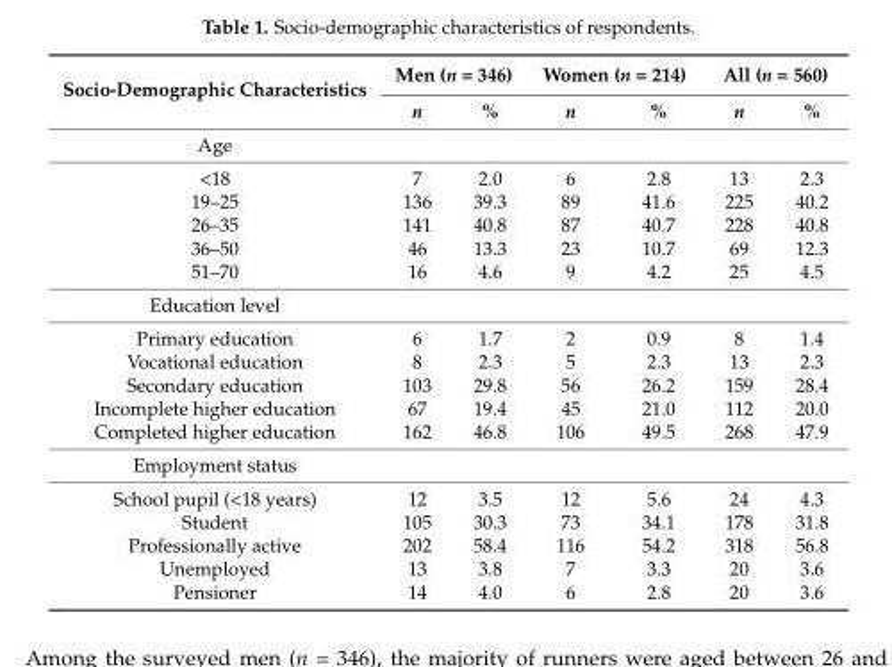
<table><thead><tr><td rowspan="2">Socio-Demographic Characteristics</td><td colspan="2">Men (n = 346)</td><td colspan="2">Women (n = 214)</td><td colspan="2">All (n = 560)</td></tr><tr><td>n</td><td>%</td><td>n</td><td>%</td><td>n</td><td>%</td></tr></thead><tbody><tr><td colspan="7">Age</td></tr><tr><td>&lt;18</td><td>7</td><td>2.0</td><td>6</td><td>2.8</td><td>13</td><td>2.3</td></tr><tr><td>19–25</td><td>136</td><td>39.3</td><td>89</td><td>41.6</td><td>225</td><td>40.2</td></tr><tr><td>26–35</td><td>141</td><td>40.8</td><td>87</td><td>40.7</td><td>228</td><td>40.8</td></tr><tr><td>36–50</td><td>46</td><td>13.3</td><td>23</td><td>10.7</td><td>69</td><td>12.3</td></tr><tr><td>51–70</td><td>16</td><td>4.6</td><td>9</td><td>4.2</td><td>25</td><td>4.5</td></tr><tr><td colspan="7">Education level</td></tr><tr><td>Primary education</td><td>6</td><td>1.7</td><td>2</td><td>0.9</td><td>8</td><td>1.4</td></tr><tr><td>Vocational education</td><td>8</td><td>2.3</td><td>5</td><td>2.3</td><td>13</td><td>2.3</td></tr><tr><td>Secondary education</td><td>103</td><td>29.8</td><td>56</td><td>26.2</td><td>159</td><td>28.4</td></tr><tr><td>Incomplete higher education</td><td>67</td><td>19.4</td><td>45</td><td>21.0</td><td>112</td><td>20.0</td></tr><tr><td>Completed higher education</td><td>162</td><td>46.8</td><td>106</td><td>49.5</td><td>268</td><td>47.9</td></tr><tr><td colspan="7">Employment status</td></tr><tr><td>School pupil (&lt;18 years)</td><td>12</td><td>3.5</td><td>12</td><td>5.6</td><td>24</td><td>4.3</td></tr><tr><td>Student</td><td>105</td><td>30.3</td><td>73</td><td>34.1</td><td>178</td><td>31.8</td></tr><tr><td>Professionally active</td><td>202</td><td>58.4</td><td>116</td><td>54.2</td><td>318</td><td>56.8</td></tr><tr><td>Unemployed</td><td>13</td><td>3.8</td><td>7</td><td>3.3</td><td>20</td><td>3.6</td></tr><tr><td>Pensioner</td><td>14</td><td>4.0</td><td>6</td><td>2.8</td><td>20</td><td>3.6</td></tr></tbody></table>